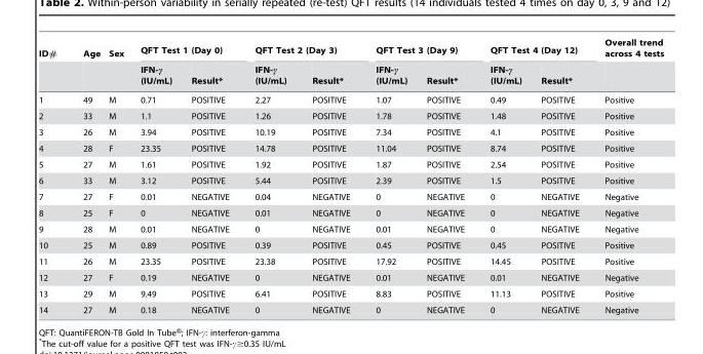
<table><thead><tr><td rowspan="2">ID#</td><td rowspan="2">Age</td><td rowspan="2">Sex</td><td colspan="2">QFT Test 1 (Day 0)</td><td colspan="2">QFT Test 2 (Day 3)</td><td colspan="2">QFT Test 3 (Day 9)</td><td colspan="2">QFT Test 4 (Day 12)</td><td rowspan="2">Overall trend across 4 tests</td></tr><tr><td>IFN-γ (IU/mL)</td><td>Result*</td><td>IFN-γ (IU/mL)</td><td>Result*</td><td>IFN-γ (IU/mL)</td><td>Result*</td><td>IFN-γ (IU/mL)</td><td>Result*</td></tr></thead><tbody><tr><td>1</td><td>49</td><td>M</td><td>0.71</td><td>POSITIVE</td><td>2.27</td><td>POSITIVE</td><td>1.07</td><td>POSITIVE</td><td>0.49</td><td>POSITIVE</td><td>Positive</td></tr><tr><td>2</td><td>33</td><td>M</td><td>1.1</td><td>POSITIVE</td><td>1.26</td><td>POSITIVE</td><td>1.78</td><td>POSITIVE</td><td>1.48</td><td>POSITIVE</td><td>Positive</td></tr><tr><td>3</td><td>26</td><td>M</td><td>3.94</td><td>POSITIVE</td><td>10.19</td><td>POSITIVE</td><td>7.34</td><td>POSITIVE</td><td>4.1</td><td>POSITIVE</td><td>Positive</td></tr><tr><td>4</td><td>28</td><td>F</td><td>23.35</td><td>POSITIVE</td><td>14.78</td><td>POSITIVE</td><td>11.04</td><td>POSITIVE</td><td>8.74</td><td>POSITIVE</td><td>Positive</td></tr><tr><td>5</td><td>27</td><td>M</td><td>1.61</td><td>POSITIVE</td><td>1.92</td><td>POSITIVE</td><td>1.87</td><td>POSITIVE</td><td>2.54</td><td>POSITIVE</td><td>Positive</td></tr><tr><td>6</td><td>33</td><td>M</td><td>3.12</td><td>POSITIVE</td><td>5.44</td><td>POSITIVE</td><td>2.39</td><td>POSITIVE</td><td>1.5</td><td>POSITIVE</td><td>Positive</td></tr><tr><td>7</td><td>27</td><td>F</td><td>0.01</td><td>NEGATIVE</td><td>0.04</td><td>NEGATIVE</td><td>0</td><td>NEGATIVE</td><td>0</td><td>NEGATIVE</td><td>Negative</td></tr><tr><td>8</td><td>25</td><td>F</td><td>0</td><td>NEGATIVE</td><td>0.01</td><td>NEGATIVE</td><td>0</td><td>NEGATIVE</td><td>0</td><td>NEGATIVE</td><td>Negative</td></tr><tr><td>9</td><td>28</td><td>M</td><td>0.01</td><td>NEGATIVE</td><td>0</td><td>NEGATIVE</td><td>0.01</td><td>NEGATIVE</td><td>0</td><td>NEGATIVE</td><td>Negative</td></tr><tr><td>10</td><td>25</td><td>M</td><td>0.89</td><td>POSITIVE</td><td>0.39</td><td>POSITIVE</td><td>0.45</td><td>POSITIVE</td><td>0.45</td><td>POSITIVE</td><td>Positive</td></tr><tr><td>11</td><td>26</td><td>M</td><td>23.35</td><td>POSITIVE</td><td>23.38</td><td>POSITIVE</td><td>17.92</td><td>POSITIVE</td><td>14.45</td><td>POSITIVE</td><td>Positive</td></tr><tr><td>12</td><td>27</td><td>F</td><td>0.19</td><td>NEGATIVE</td><td>0</td><td>NEGATIVE</td><td>0.01</td><td>NEGATIVE</td><td>0.01</td><td>NEGATIVE</td><td>Negative</td></tr><tr><td>13</td><td>29</td><td>M</td><td>9.49</td><td>POSITIVE</td><td>6.41</td><td>POSITIVE</td><td>8.83</td><td>POSITIVE</td><td>11.13</td><td>POSITIVE</td><td>Positive</td></tr><tr><td>14</td><td>27</td><td>M</td><td>0.18</td><td>NEGATIVE</td><td>0</td><td>NEGATIVE</td><td>0</td><td>NEGATIVE</td><td>0</td><td>NEGATIVE</td><td>Negative</td></tr></tbody></table>